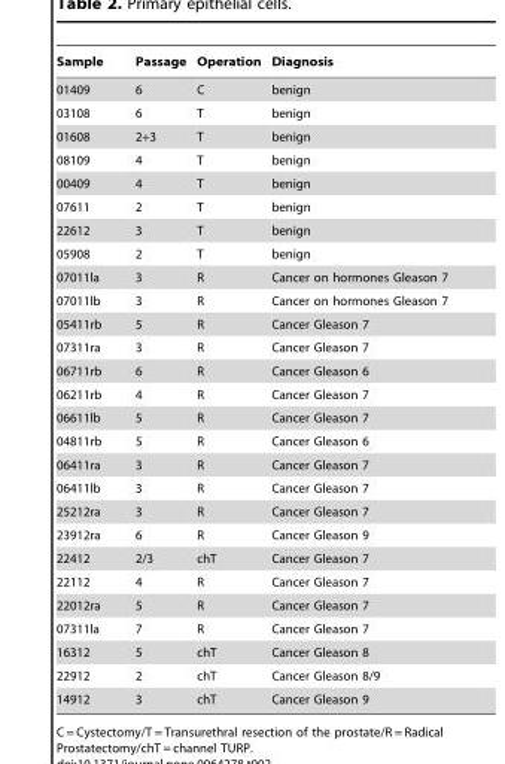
<table><thead><tr><td>Sample</td><td>Passage</td><td>Operation</td><td>Diagnosis</td></tr></thead><tbody><tr><td>01409</td><td>6</td><td>C</td><td>benign</td></tr><tr><td>03108</td><td>6</td><td>T</td><td>benign</td></tr><tr><td>01608</td><td>2+3</td><td>T</td><td>benign</td></tr><tr><td>08109</td><td>4</td><td>T</td><td>benign</td></tr><tr><td>00409</td><td>4</td><td>T</td><td>benign</td></tr><tr><td>07611</td><td>2</td><td>T</td><td>benign</td></tr><tr><td>22612</td><td>3</td><td>T</td><td>benign</td></tr><tr><td>05908</td><td>2</td><td>T</td><td>benign</td></tr><tr><td>07011la</td><td>3</td><td>R</td><td>Cancer on hormones Gleason 7</td></tr><tr><td>07011lb</td><td>3</td><td>R</td><td>Cancer on hormones Gleason 7</td></tr><tr><td>05411rb</td><td>5</td><td>R</td><td>Cancer Gleason 7</td></tr><tr><td>07311ra</td><td>3</td><td>R</td><td>Cancer Gleason 7</td></tr><tr><td>06711rb</td><td>6</td><td>R</td><td>Cancer Gleason 6</td></tr><tr><td>06211rb</td><td>4</td><td>R</td><td>Cancer Gleason 7</td></tr><tr><td>06611lb</td><td>5</td><td>R</td><td>Cancer Gleason 7</td></tr><tr><td>04811rb</td><td>5</td><td>R</td><td>Cancer Gleason 6</td></tr><tr><td>06411ra</td><td>3</td><td>R</td><td>Cancer Gleason 7</td></tr><tr><td>06411lb</td><td>3</td><td>R</td><td>Cancer Gleason 7</td></tr><tr><td>25212ra</td><td>3</td><td>R</td><td>Cancer Gleason 7</td></tr><tr><td>23912ra</td><td>6</td><td>R</td><td>Cancer Gleason 9</td></tr><tr><td>22412</td><td>2/3</td><td>chT</td><td>Cancer Gleason 7</td></tr><tr><td>22112</td><td>4</td><td>R</td><td>Cancer Gleason 7</td></tr><tr><td>22012ra</td><td>5</td><td>R</td><td>Cancer Gleason 7</td></tr><tr><td>07311la</td><td>7</td><td>R</td><td>Cancer Gleason 7</td></tr><tr><td>16312</td><td>5</td><td>chT</td><td>Cancer Gleason 8</td></tr><tr><td>22912</td><td>2</td><td>chT</td><td>Cancer Gleason 8/9</td></tr><tr><td>14912</td><td>3</td><td>chT</td><td>Cancer Gleason 9</td></tr></tbody></table>